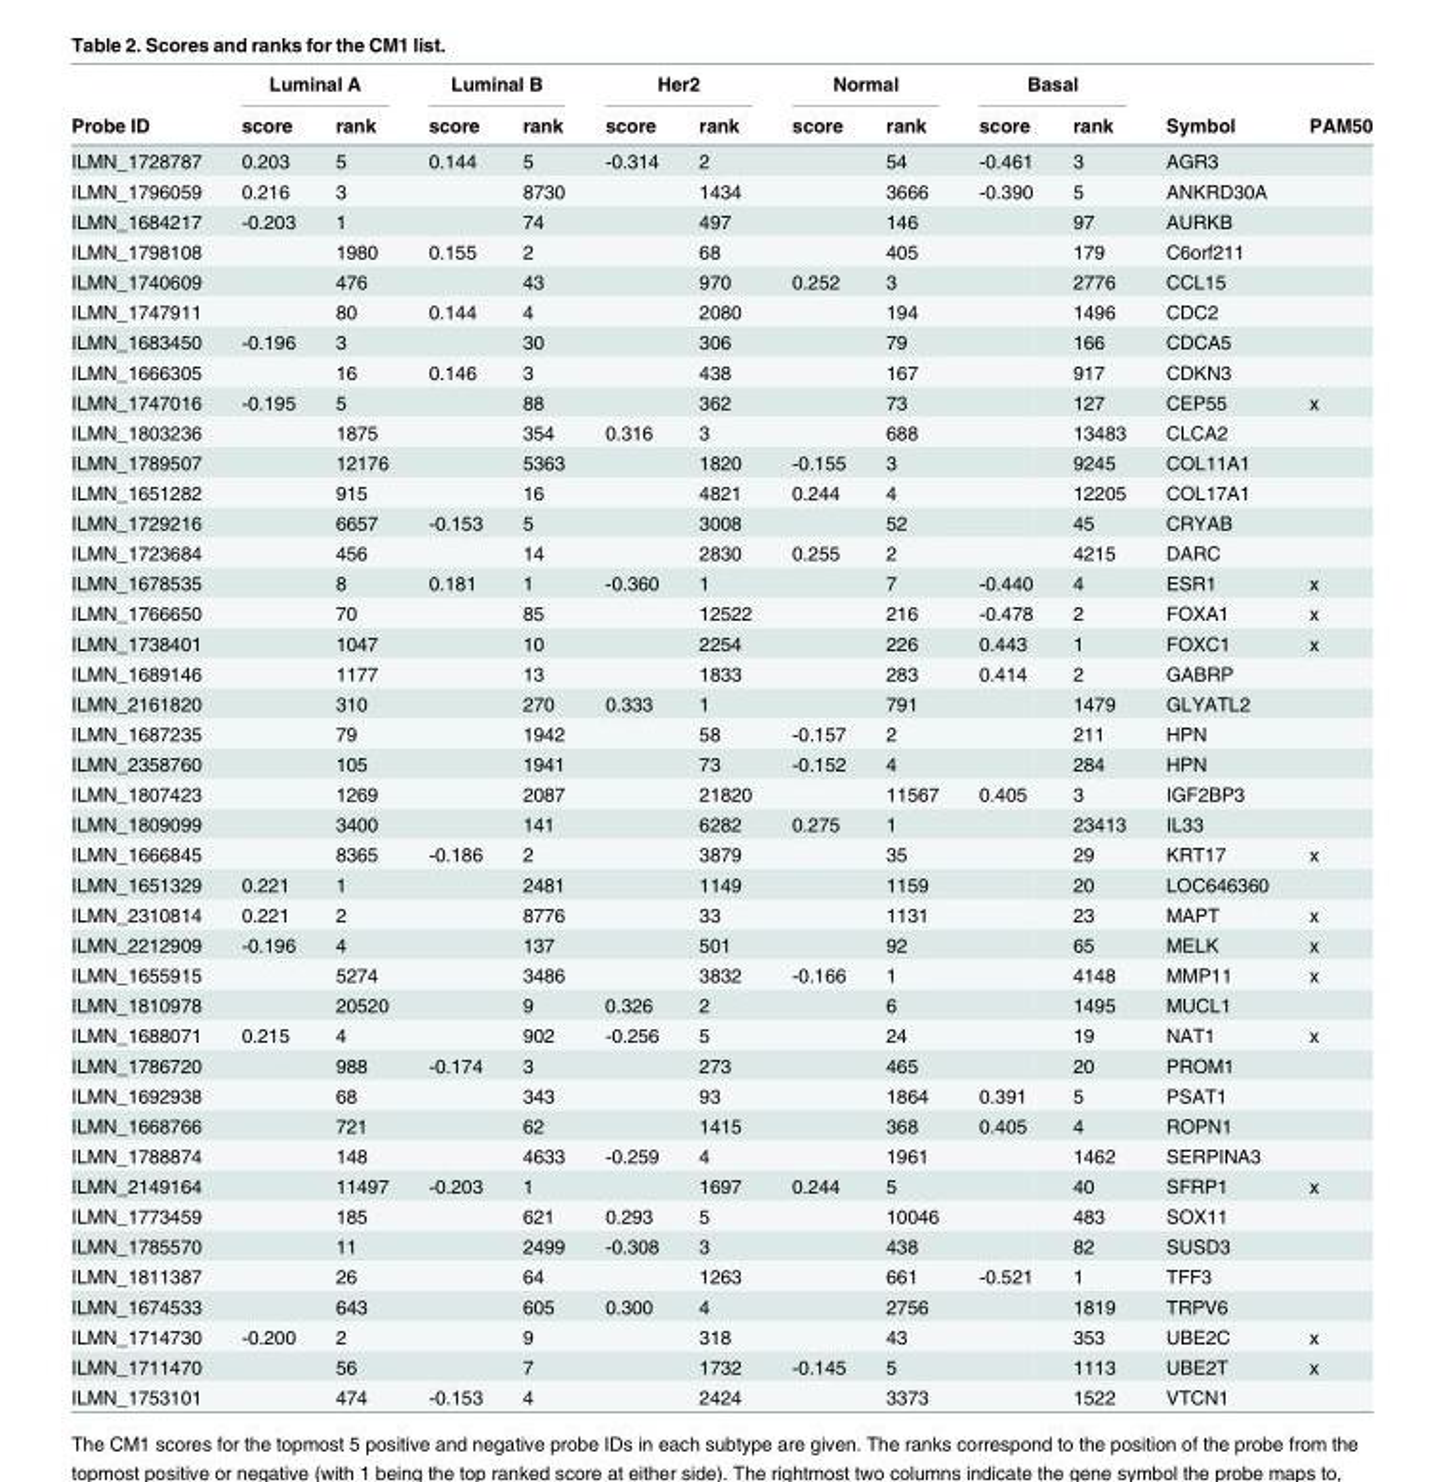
<table><thead><tr><td rowspan="2">Probe ID</td><td colspan="2">Luminal A</td><td colspan="2">Luminal B</td><td colspan="2">Her2</td><td colspan="2">Normal</td><td colspan="2">Basal</td><td rowspan="2">Symbol</td><td rowspan="2">PAM50</td></tr><tr><td>score</td><td>rank</td><td>score</td><td>rank</td><td>score</td><td>rank</td><td>score</td><td>rank</td><td>score</td><td>rank</td></tr></thead><tbody><tr><td>ILMN_1728787</td><td>0.203</td><td>5</td><td>0.144</td><td>5</td><td>-0.314</td><td>2</td><td></td><td>54</td><td>-0.461</td><td>3</td><td>AGR3</td><td></td></tr><tr><td>ILMN_1796059</td><td>0.216</td><td>3</td><td></td><td>8730</td><td></td><td>1434</td><td></td><td>3666</td><td>-0.390</td><td>5</td><td>ANKRD30A</td><td></td></tr><tr><td>ILMN_1684217</td><td>-0.203</td><td>1</td><td></td><td>74</td><td></td><td>497</td><td></td><td>146</td><td></td><td>97</td><td>AURKB</td><td></td></tr><tr><td>ILMN_1798108</td><td></td><td>1980</td><td>0.155</td><td>2</td><td></td><td>68</td><td></td><td>405</td><td></td><td>179</td><td>C6orf211</td><td></td></tr><tr><td>ILMN_1740609</td><td></td><td>476</td><td></td><td>43</td><td></td><td>970</td><td>0.252</td><td>3</td><td></td><td>2776</td><td>CCL15</td><td></td></tr><tr><td>ILMN_1747911</td><td></td><td>80</td><td>0.144</td><td>4</td><td></td><td>2080</td><td></td><td>194</td><td></td><td>1496</td><td>CDC2</td><td></td></tr><tr><td>ILMN_1683450</td><td>-0.196</td><td>3</td><td></td><td>30</td><td></td><td>306</td><td></td><td>79</td><td></td><td>166</td><td>CDCA5</td><td></td></tr><tr><td>ILMN_1666305</td><td></td><td>16</td><td>0.146</td><td>3</td><td></td><td>438</td><td></td><td>167</td><td></td><td>917</td><td>CDKN3</td><td></td></tr><tr><td>ILMN_1747016</td><td>-0.195</td><td>5</td><td></td><td>88</td><td></td><td>362</td><td></td><td>73</td><td></td><td>127</td><td>CEP55</td><td>x</td></tr><tr><td>ILMN_1803236</td><td></td><td>1875</td><td></td><td>354</td><td>0.316</td><td>3</td><td></td><td>688</td><td></td><td>13483</td><td>CLCA2</td><td></td></tr><tr><td>ILMN_1789507</td><td></td><td>12176</td><td></td><td>5363</td><td></td><td>1820</td><td>-0.155</td><td>3</td><td></td><td>9245</td><td>COL11A1</td><td></td></tr><tr><td>ILMN_1651282</td><td></td><td>915</td><td></td><td>16</td><td></td><td>4821</td><td>0.244</td><td>4</td><td></td><td>12205</td><td>COL17A1</td><td></td></tr><tr><td>ILMN_1729216</td><td></td><td>6657</td><td>-0.153</td><td>5</td><td></td><td>3008</td><td></td><td>52</td><td></td><td>45</td><td>CRYAB</td><td></td></tr><tr><td>ILMN_1723684</td><td></td><td>456</td><td></td><td>14</td><td></td><td>2830</td><td>0.255</td><td>2</td><td></td><td>4215</td><td>DARC</td><td></td></tr><tr><td>ILMN_1678535</td><td></td><td>8</td><td>0.181</td><td>1</td><td>-0.360</td><td>1</td><td></td><td>7</td><td>-0.440</td><td>4</td><td>ESR1</td><td>x</td></tr><tr><td>ILMN_1766650</td><td></td><td>70</td><td></td><td>85</td><td></td><td>12522</td><td></td><td>216</td><td>-0.478</td><td>2</td><td>FOXA1</td><td>x</td></tr><tr><td>ILMN_1738401</td><td></td><td>1047</td><td></td><td>10</td><td></td><td>2254</td><td></td><td>226</td><td>0.443</td><td>1</td><td>FOXC1</td><td>x</td></tr><tr><td>ILMN_1689146</td><td></td><td>1177</td><td></td><td>13</td><td></td><td>1833</td><td></td><td>283</td><td>0.414</td><td>2</td><td>GABRP</td><td></td></tr><tr><td>ILMN_2161820</td><td></td><td>310</td><td></td><td>270</td><td>0.333</td><td>1</td><td></td><td>791</td><td></td><td>1479</td><td>GLYATL2</td><td></td></tr><tr><td>ILMN_1687235</td><td></td><td>79</td><td></td><td>1942</td><td></td><td>58</td><td>-0.157</td><td>2</td><td></td><td>211</td><td>HPN</td><td></td></tr><tr><td>ILMN_2358760</td><td></td><td>105</td><td></td><td>1941</td><td></td><td>73</td><td>-0.152</td><td>4</td><td></td><td>284</td><td>HPN</td><td></td></tr><tr><td>ILMN_1807423</td><td></td><td>1269</td><td></td><td>2087</td><td></td><td>21820</td><td></td><td>11567</td><td>0.405</td><td>3</td><td>IGF2BP3</td><td></td></tr><tr><td>ILMN_1809099</td><td></td><td>3400</td><td></td><td>141</td><td></td><td>6282</td><td>0.275</td><td>1</td><td></td><td>23413</td><td>IL33</td><td></td></tr><tr><td>ILMN_1666845</td><td></td><td>8365</td><td>-0.186</td><td>2</td><td></td><td>3879</td><td></td><td>35</td><td></td><td>29</td><td>KRT17</td><td>x</td></tr><tr><td>ILMN_1651329</td><td>0.221</td><td>1</td><td></td><td>2481</td><td></td><td>1149</td><td></td><td>1159</td><td></td><td>20</td><td>LOC646360</td><td></td></tr><tr><td>ILMN_2310814</td><td>0.221</td><td>2</td><td></td><td>8776</td><td></td><td>33</td><td></td><td>1131</td><td></td><td>23</td><td>MAPT</td><td>x</td></tr><tr><td>ILMN_2212909</td><td>-0.196</td><td>4</td><td></td><td>137</td><td></td><td>501</td><td></td><td>92</td><td></td><td>65</td><td>MELK</td><td>x</td></tr><tr><td>ILMN_1655915</td><td></td><td>5274</td><td></td><td>3486</td><td></td><td>3832</td><td>-0.166</td><td>1</td><td></td><td>4148</td><td>MMP11</td><td>x</td></tr><tr><td>ILMN_1810978</td><td></td><td>20520</td><td></td><td>9</td><td>0.326</td><td>2</td><td></td><td>6</td><td></td><td>1495</td><td>MUCL1</td><td></td></tr><tr><td>ILMN_1688071</td><td>0.215</td><td>4</td><td></td><td>902</td><td>-0.256</td><td>5</td><td></td><td>24</td><td></td><td>19</td><td>NAT1</td><td>x</td></tr><tr><td>ILMN_1786720</td><td></td><td>988</td><td>-0.174</td><td>3</td><td></td><td>273</td><td></td><td>465</td><td></td><td>20</td><td>PROM1</td><td></td></tr><tr><td>ILMN_1692938</td><td></td><td>68</td><td></td><td>343</td><td></td><td>93</td><td></td><td>1864</td><td>0.391</td><td>5</td><td>PSAT1</td><td></td></tr><tr><td>ILMN_1668766</td><td></td><td>721</td><td></td><td>62</td><td></td><td>1415</td><td></td><td>368</td><td>0.405</td><td>4</td><td>ROPN1</td><td></td></tr><tr><td>ILMN_1788874</td><td></td><td>148</td><td></td><td>4633</td><td>-0.259</td><td>4</td><td></td><td>1961</td><td></td><td>1462</td><td>SERPINA3</td><td></td></tr><tr><td>ILMN_2149164</td><td></td><td>11497</td><td>-0.203</td><td>1</td><td></td><td>1697</td><td>0.244</td><td>5</td><td></td><td>40</td><td>SFRP1</td><td>x</td></tr><tr><td>ILMN_1773459</td><td></td><td>185</td><td></td><td>621</td><td>0.293</td><td>5</td><td></td><td>10046</td><td></td><td>483</td><td>SOX11</td><td></td></tr><tr><td>ILMN_1785570</td><td></td><td>11</td><td></td><td>2499</td><td>-0.308</td><td>3</td><td></td><td>438</td><td></td><td>82</td><td>SUSD3</td><td></td></tr><tr><td>ILMN_1811387</td><td></td><td>26</td><td></td><td>64</td><td></td><td>1263</td><td></td><td>661</td><td>-0.521</td><td>1</td><td>TFF3</td><td></td></tr><tr><td>ILMN_1674533</td><td></td><td>643</td><td></td><td>605</td><td>0.300</td><td>4</td><td></td><td>2756</td><td></td><td>1819</td><td>TRPV6</td><td></td></tr><tr><td>ILMN_1714730</td><td>-0.200</td><td>2</td><td></td><td>9</td><td></td><td>318</td><td></td><td>43</td><td></td><td>353</td><td>UBE2C</td><td>x</td></tr><tr><td>ILMN_1711470</td><td></td><td>56</td><td></td><td>7</td><td></td><td>1732</td><td>-0.145</td><td>5</td><td></td><td>1113</td><td>UBE2T</td><td>x</td></tr><tr><td>ILMN_1753101</td><td></td><td>474</td><td>-0.153</td><td>4</td><td></td><td>2424</td><td></td><td>3373</td><td></td><td>1522</td><td>VTCN1</td><td></td></tr></tbody></table>